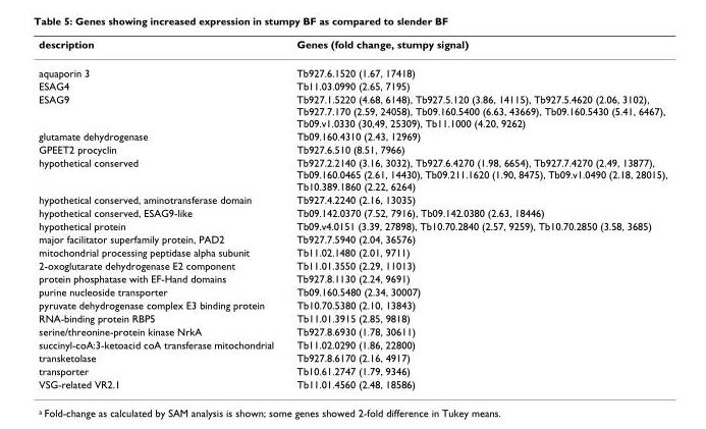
<table><thead><tr><td>description</td><td>Genes (fold change, stumpy signal)</td></tr></thead><tbody><tr><td>aquaporin 3</td><td>Tb927.6.1520 (1.67, 17418)</td></tr><tr><td>ESAG4</td><td>Tb11.03.0990 (2.65, 7195)</td></tr><tr><td>ESAG9</td><td>Tb927.1.5220 (4.68, 6148), Tb927.5.120 (3.86, 14115), Tb927.5.4620 (2.06, 3102), Tb927.7.170 (2.59, 24058), Tb09.160.5400 (6.63, 43669), Tb09.160.5430 (5.41, 6467), Tb09.v1.0330 (30,49, 25309), Tb11.1000 (4.20, 9262)</td></tr><tr><td>glutamate dehydrogenase</td><td>Tb09.160.4310 (2.43, 12969)</td></tr><tr><td>GPEET2 procyclin</td><td>Tb927.6.510 (8.51, 7966)</td></tr><tr><td>hypothetical conserved</td><td>Tb927.2.2140 (3.16, 3032), Tb927.6.4270 (1.98, 6654), Tb927.7.4270 (2.49, 13877), Tb09.160.0465 (2.61, 14430), Tb09.211.1620 (1.90, 8475), Tb09.v1.0490 (2.18, 28015), Tb10.389.1860 (2.22, 6264)</td></tr><tr><td>hypothetical conserved, aminotransferase domain</td><td>Tb927.4.2240 (2.16, 13035)</td></tr><tr><td>hypothetical conserved, ESAG9-like</td><td>Tb09.142.0370 (7.52, 7916), Tb09.142.0380 (2.63, 18446)</td></tr><tr><td>hypothetical protein</td><td>Tb09.v4.0151 (3.39, 27898), Tb10.70.2840 (2.57, 9259), Tb10.70.2850 (3.58, 3685)</td></tr><tr><td>major facilitator superfamily protein, PAD2</td><td>Tb927.7.5940 (2.04, 36576)</td></tr><tr><td>mitochondrial processing peptidase alpha subunit</td><td>Tb11.02.1480 (2.01, 9711)</td></tr><tr><td>2-oxoglutarate dehydrogenase E2 component</td><td>Tb11.01.3550 (2.29, 11013)</td></tr><tr><td>protein phosphatase with EF-Hand domains</td><td>Tb927.8.1130 (2.24, 9691)</td></tr><tr><td>purine nucleoside transporter</td><td>Tb09.160.5480 (2.34, 30007)</td></tr><tr><td>pyruvate dehydrogenase complex E3 binding protein</td><td>Tb10.70.5380 (2.10, 13843)</td></tr><tr><td>RNA-binding protein RBP5</td><td>Tb11.01.3915 (2.85, 9818)</td></tr><tr><td>serine/threonine-protein kinase NrkA</td><td>Tb927.8.6930 (1.78, 30611)</td></tr><tr><td>succinyl-coA:3-ketoacid coA transferase mitochondrial</td><td>Tb11.02.0290 (1.86, 22800)</td></tr><tr><td>transketolase</td><td>Tb927.8.6170 (2.16, 4917)</td></tr><tr><td>transporter</td><td>Tb10.61.2747 (1.79, 9346)</td></tr><tr><td>VSG-related VR2.1</td><td>Tb11.01.4560 (2.48, 18586)</td></tr></tbody></table>